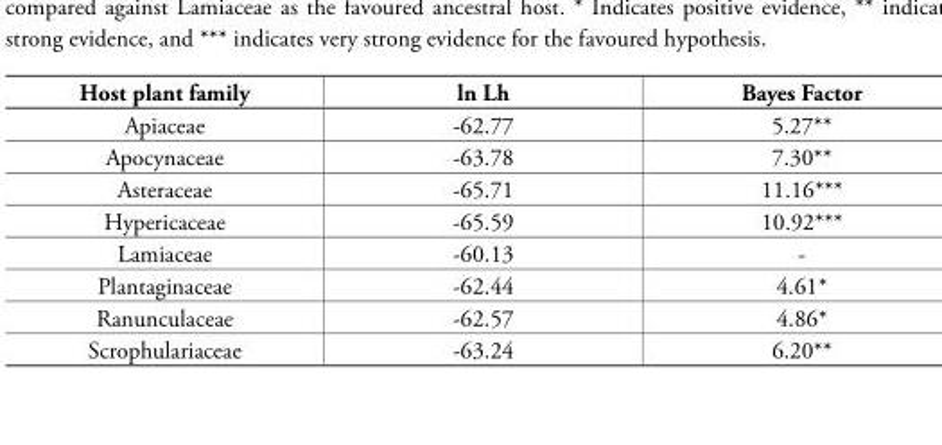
<table><thead><tr><td>Host plant family</td><td>ln Lh</td><td>Bayes Factor</td></tr></thead><tbody><tr><td>Apiaceae</td><td>-62.77</td><td>5.27**</td></tr><tr><td>Apocynaceae</td><td>-63.78</td><td>7.30**</td></tr><tr><td>Asteraceae</td><td>-65.71</td><td>11.16***</td></tr><tr><td>Hypericaceae</td><td>-65.59</td><td>10.92***</td></tr><tr><td>Lamiaceae</td><td>-60.13</td><td>-</td></tr><tr><td>Plantaginaceae</td><td>-62.44</td><td>4.61*</td></tr><tr><td>Ranunculaceae</td><td>-62.57</td><td>4.86*</td></tr><tr><td>Scrophulariaceae</td><td>-63.24</td><td>6.20**</td></tr></tbody></table>